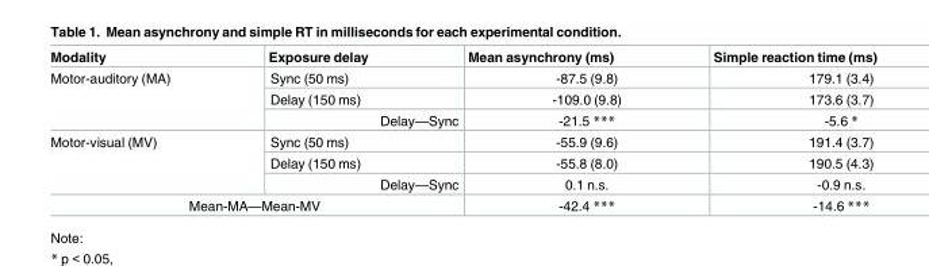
<table><thead><tr><td>Modality</td><td>Exposure delay</td><td>Mean asynchrony (ms)</td><td>Simple reaction time (ms)</td></tr></thead><tbody><tr><td rowspan="3">Motor-auditory (MA)</td><td>Sync (50 ms)</td><td>-87.5 (9.8)</td><td>179.1 (3.4)</td></tr><tr><td>Delay (150 ms)</td><td>-109.0 (9.8)</td><td>173.6 (3.7)</td></tr><tr><td>Delay—Sync</td><td>-21.5 ***</td><td>-5.6 *</td></tr><tr><td rowspan="3">Motor-visual (MV)</td><td>Sync (50 ms)</td><td>-55.9 (9.6)</td><td>191.4 (3.7)</td></tr><tr><td>Delay (150 ms)</td><td>-55.8 (8.0)</td><td>190.5 (4.3)</td></tr><tr><td>Delay—Sync</td><td>0.1 n.s.</td><td>-0.9 n.s.</td></tr><tr><td colspan="2">Mean-MA—Mean-MV</td><td>-42.4 ***</td><td>-14.6 ***</td></tr></tbody></table>